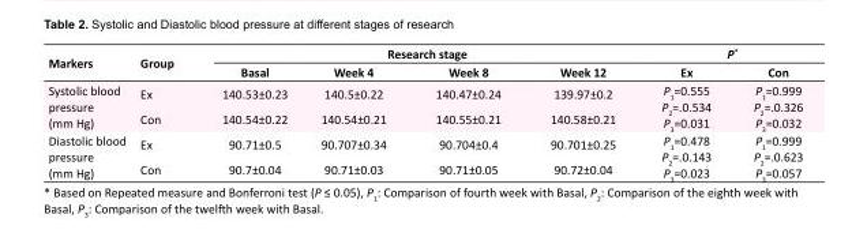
<table><tbody><tr><td rowspan="2">Markers</td><td rowspan="2">Group</td><td colspan="4">Research stage</td><td colspan="2">P*</td></tr><tr><td>Basal</td><td>Week 4</td><td>Week 8</td><td>Week 12</td><td>Ex</td><td>Con</td></tr><tr><td rowspan="2">Systolic blood pressure (mm Hg)</td><td>Ex</td><td>140.53±0.23</td><td>140.5±0.22</td><td>140.47±0.24</td><td>139.97±0.2</td><td rowspan="2">P<sub>1</sub>=0.555 P<sub>2</sub>=.0.534 P<sub>3</sub>=0.031</td><td rowspan="2">P<sub>1</sub>=0.999 P<sub>2</sub>=.0.326 P<sub>3</sub>=0.032</td></tr><tr><td>Con</td><td>140.54±0.22</td><td>140.54±0.21</td><td>140.55±0.21</td><td>140.58±0.21</td></tr><tr><td rowspan="2">Diastolic blood pressure (mm Hg)</td><td>Ex</td><td>90.71±0.5</td><td>90.707±0.34</td><td>90.704±0.4</td><td>90.701±0.25</td><td rowspan="2">P<sub>1</sub>=0.478 P<sub>2</sub>=.0.143 P<sub>3</sub>=0.023</td><td rowspan="2">P<sub>1</sub>=0.999 P<sub>2</sub>=.0.623 P<sub>3</sub>=0.057</td></tr><tr><td>Con</td><td>90.7±0.04</td><td>90.71±0.03</td><td>90.71±0.05</td><td>90.72±0.04</td></tr></tbody></table>